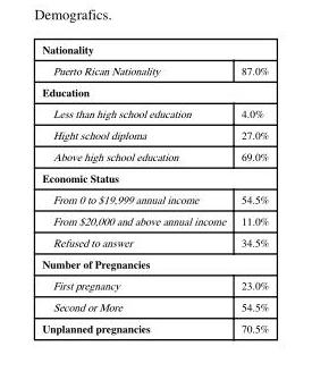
<table><tbody><tr><td colspan="2">Nationality</td></tr><tr><td>Puerto Rican Nationality</td><td>87.0%</td></tr><tr><td colspan="2">Education</td></tr><tr><td>Less than high school education</td><td>4.0%</td></tr><tr><td>Hight school diploma</td><td>27.0%</td></tr><tr><td>Above high school education</td><td>69.0%</td></tr><tr><td colspan="2">Economic Status</td></tr><tr><td>From 0 to $19,999 annual income</td><td>54.5%</td></tr><tr><td>From $20,000 and above annual income</td><td>11.0%</td></tr><tr><td>Refused to answer</td><td>34.5%</td></tr><tr><td colspan="2">Number of Pregnancies</td></tr><tr><td>First pregnancy</td><td>23.0%</td></tr><tr><td>Second or More</td><td>54.5%</td></tr><tr><td>Unplanned pregnancies</td><td>70.5%</td></tr></tbody></table>